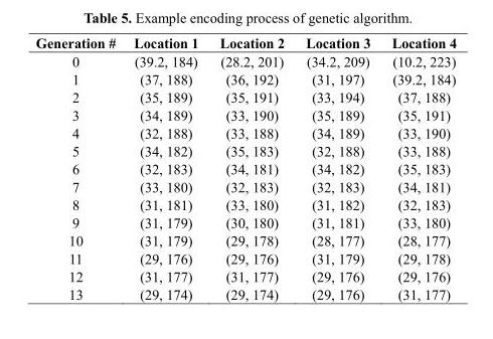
<table><thead><tr><td>Generation #</td><td>Location 1</td><td>Location 2</td><td>Location 3</td><td>Location 4</td></tr></thead><tbody><tr><td>0</td><td>(39.2, 184)</td><td>(28.2, 201)</td><td>(34.2, 209)</td><td>(10.2, 223)</td></tr><tr><td>1</td><td>(37, 188)</td><td>(36, 192)</td><td>(31, 197)</td><td>(39.2, 184)</td></tr><tr><td>2</td><td>(35, 189)</td><td>(35, 191)</td><td>(33, 194)</td><td>(37, 188)</td></tr><tr><td>3</td><td>(34, 189)</td><td>(33, 190)</td><td>(35, 189)</td><td>(35, 191)</td></tr><tr><td>4</td><td>(32, 188)</td><td>(33, 188)</td><td>(34, 189)</td><td>(33, 190)</td></tr><tr><td>5</td><td>(34, 182)</td><td>(35, 183)</td><td>(32, 188)</td><td>(33, 188)</td></tr><tr><td>6</td><td>(32, 183)</td><td>(34, 181)</td><td>(34, 182)</td><td>(35, 183)</td></tr><tr><td>7</td><td>(33, 180)</td><td>(32, 183)</td><td>(32, 183)</td><td>(34, 181)</td></tr><tr><td>8</td><td>(31, 181)</td><td>(33, 180)</td><td>(31, 182)</td><td>(32, 183)</td></tr><tr><td>9</td><td>(31, 179)</td><td>(30, 180)</td><td>(31, 181)</td><td>(33, 180)</td></tr><tr><td>10</td><td>(31, 179)</td><td>(29, 178)</td><td>(28, 177)</td><td>(28, 177)</td></tr><tr><td>11</td><td>(29, 176)</td><td>(29, 176)</td><td>(31, 179)</td><td>(29, 178)</td></tr><tr><td>12</td><td>(31, 177)</td><td>(31, 177)</td><td>(29, 176)</td><td>(29, 176)</td></tr><tr><td>13</td><td>(29, 174)</td><td>(29, 174)</td><td>(29, 176)</td><td>(31, 177)</td></tr></tbody></table>